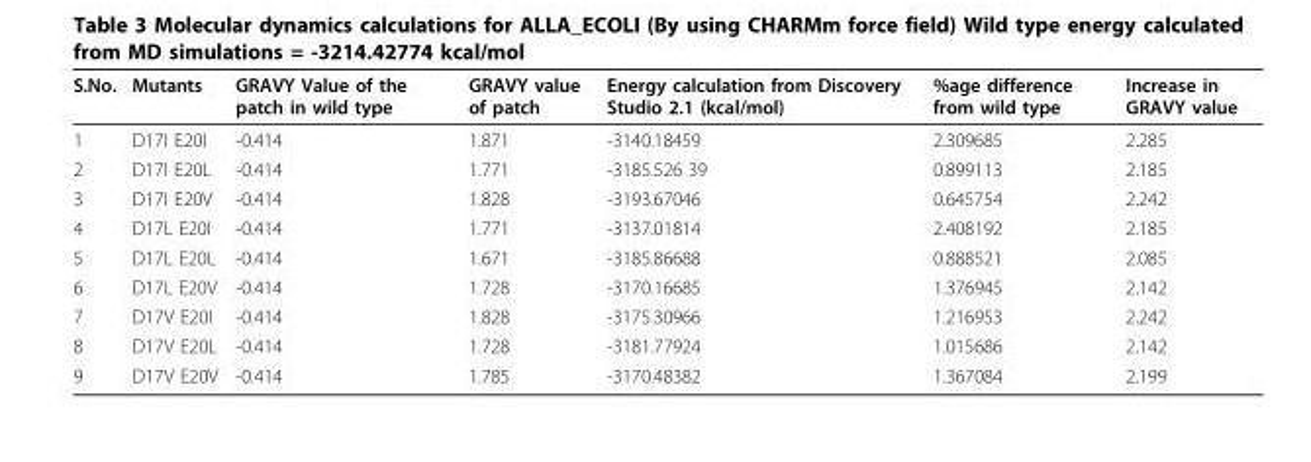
<table><thead><tr><td>S.No.</td><td>Mutants</td><td>GRAVY Value of the patch in wild type</td><td>GRAVY value of patch</td><td>Energy calculation from Discovery Studio 2.1 (kcal/mol)</td><td>%age difference from wild type</td><td>Increase in GRAVY value</td></tr></thead><tbody><tr><td>1</td><td>D17I E20I</td><td>-0.414</td><td>1.871</td><td>-3140.18459</td><td>2.309685</td><td>2.285</td></tr><tr><td>2</td><td>D17I E20L</td><td>-0.414</td><td>1.771</td><td>-3185.526 39</td><td>0.899113</td><td>2.185</td></tr><tr><td>3</td><td>D17I E20V</td><td>-0.414</td><td>1.828</td><td>-3193.67046</td><td>0.645754</td><td>2.242</td></tr><tr><td>4</td><td>D17L E20I</td><td>-0.414</td><td>1.771</td><td>-3137.01814</td><td>2.408192</td><td>2.185</td></tr><tr><td>5</td><td>D17L E20L</td><td>-0.414</td><td>1.671</td><td>-3185.86688</td><td>0.888521</td><td>2.085</td></tr><tr><td>6</td><td>D17L E20V</td><td>-0.414</td><td>1.728</td><td>-3170.16685</td><td>1.376945</td><td>2.142</td></tr><tr><td>7</td><td>D17V E20I</td><td>-0.414</td><td>1.828</td><td>-3175.30966</td><td>1.216953</td><td>2.242</td></tr><tr><td>8</td><td>D17V E20L</td><td>-0.414</td><td>1.728</td><td>-3181.77924</td><td>1.015686</td><td>2.142</td></tr><tr><td>9</td><td>D17V E20V</td><td>-0.414</td><td>1.785</td><td>-3170.48382</td><td>1.367084</td><td>2.199</td></tr></tbody></table>